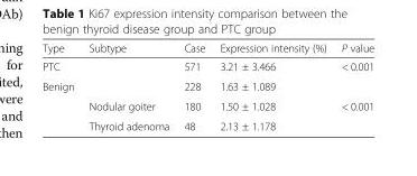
<table><thead><tr><td>Type</td><td>Subtype</td><td>Case</td><td>Expression intensity (%)</td><td>P value</td></tr></thead><tbody><tr><td>PTC</td><td></td><td>571</td><td>3.21 ± 3.466</td><td>&lt; 0.001</td></tr><tr><td rowspan="3">Benign</td><td></td><td>228</td><td>1.63 ± 1.089</td><td></td></tr><tr><td>Nodular goiter</td><td>180</td><td>1.50 ± 1.028</td><td>&lt; 0.001</td></tr><tr><td>Thyroid adenoma</td><td>48</td><td>2.13 ± 1.178</td><td></td></tr></tbody></table>